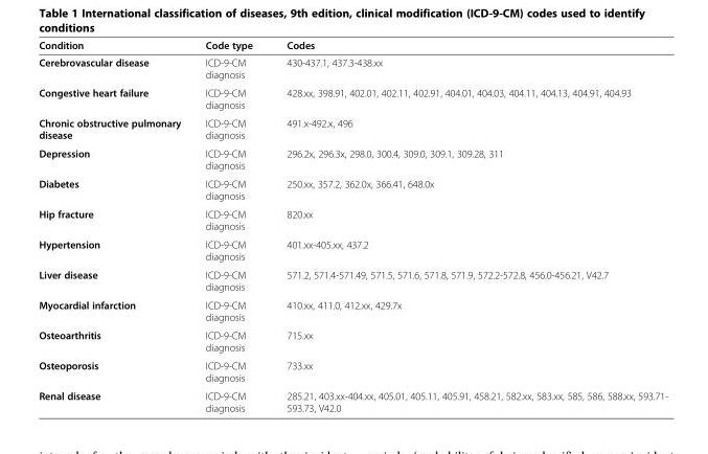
<table><thead><tr><td>Condition</td><td>Code type</td><td>Codes</td></tr></thead><tbody><tr><td>Cerebrovascular disease</td><td>ICD-9-CM diagnosis</td><td>430-437.1, 437.3-438.xx</td></tr><tr><td>Congestive heart failure</td><td>ICD-9-CM diagnosis</td><td>428.xx, 398.91, 402.01, 402.11, 402.91, 404.01, 404.03, 404.11, 404.13, 404.91, 404.93</td></tr><tr><td>Chronic obstructive pulmonary disease</td><td>ICD-9-CM diagnosis</td><td>491.x-492.x, 496</td></tr><tr><td>Depression</td><td>ICD-9-CM diagnosis</td><td>296.2x, 296.3x, 298.0, 300.4, 309.0, 309.1, 309.28, 311</td></tr><tr><td>Diabetes</td><td>ICD-9-CM diagnosis</td><td>250.xx, 357.2, 362.0x, 366.41, 648.0x</td></tr><tr><td>Hip fracture</td><td>ICD-9-CM diagnosis</td><td>820.xx</td></tr><tr><td>Hypertension</td><td>ICD-9-CM diagnosis</td><td>401.xx-405.xx, 437.2</td></tr><tr><td>Liver disease</td><td>ICD-9-CM diagnosis</td><td>571.2, 571.4-571.49, 571.5, 571.6, 571.8, 571.9, 572.2-572.8, 456.0-456.21, V42.7</td></tr><tr><td>Myocardial infarction</td><td>ICD-9-CM diagnosis</td><td>410.xx, 411.0, 412.xx, 429.7x</td></tr><tr><td>Osteoarthritis</td><td>ICD-9-CM diagnosis</td><td>715.xx</td></tr><tr><td>Osteoporosis</td><td>ICD-9-CM diagnosis</td><td>733.xx</td></tr><tr><td>Renal disease</td><td>ICD-9-CM diagnosis</td><td>285.21, 403.xx-404.xx, 405.01, 405.11, 405.91, 458.21, 582.xx, 583.xx, 585, 586, 588.xx, 593.71- 593.73, V42.0</td></tr></tbody></table>